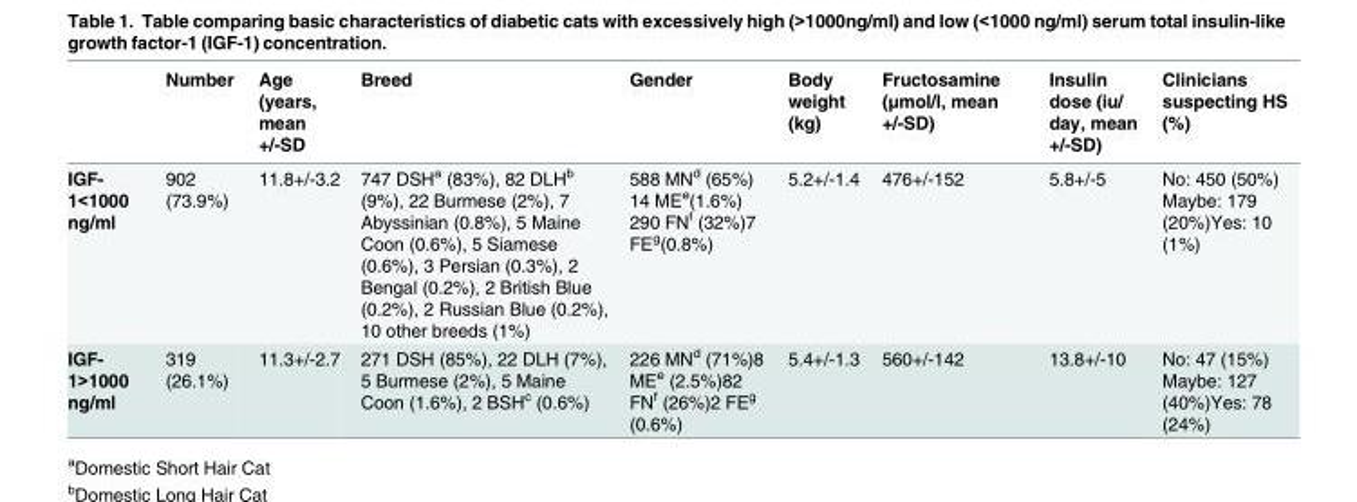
<table><thead><tr><td></td><td>Number</td><td>Age (years, mean +/-SD</td><td>Breed</td><td>Gender</td><td>Body weight (kg)</td><td>Fructosamine (μmol/l, mean +/-SD)</td><td>Insulin dose (iu/ day, mean +/-SD)</td><td>Clinicians suspecting HS (%)</td></tr></thead><tbody><tr><td>IGF- 1&lt;1000 ng/ml</td><td>902 (73.9%)</td><td>11.8+/-3.2</td><td>747 DSH<sup>a</sup> (83%), 82 DLH<sup>b</sup> (9%), 22 Burmese (2%), 7 Abyssinian (0.8%), 5 Maine Coon (0.6%), 5 Siamese (0.6%), 3 Persian (0.3%), 2 Bengal (0.2%), 2 British Blue (0.2%), 2 Russian Blue (0.2%), 10 other breeds (1%)</td><td>588 MN<sup>d</sup> (65%) 14 ME<sup>e</sup>(1.6%) 290 FN<sup>f</sup> (32%)7 FE<sup>g</sup>(0.8%)</td><td>5.2+/-1.4</td><td>476+/-152</td><td>5.8+/-5</td><td>No: 450 (50%) Maybe: 179 (20%)Yes: 10 (1%)</td></tr><tr><td>IGF- 1&gt;1000 ng/ml</td><td>319 (26.1%)</td><td>11.3+/-2.7</td><td>271 DSH (85%), 22 DLH (7%), 5 Burmese (2%), 5 Maine Coon (1.6%), 2 BSH<sup>c</sup> (0.6%)</td><td>226 MN<sup>d</sup> (71%)8 ME<sup>e</sup> (2.5%)82 FN<sup>f</sup> (26%)2 FE<sup>g</sup> (0.6%)</td><td>5.4+/-1.3</td><td>560+/-142</td><td>13.8+/-10</td><td>No: 47 (15%) Maybe: 127 (40%)Yes: 78 (24%)</td></tr></tbody></table>